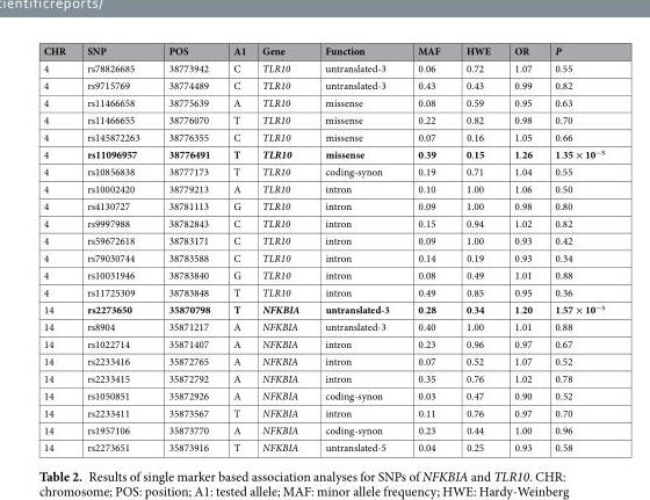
<table><thead><tr><td>CHR</td><td>SNP</td><td>POS</td><td>A1</td><td>Gene</td><td>Function</td><td>MAF</td><td>HWE</td><td>OR</td><td>P</td></tr></thead><tbody><tr><td>4</td><td>rs78826685</td><td>38773942</td><td>C</td><td>TLR10</td><td>untranslated-3</td><td>0.06</td><td>0.72</td><td>1.07</td><td>0.55</td></tr><tr><td>4</td><td>rs9715769</td><td>38774489</td><td>C</td><td>TLR10</td><td>untranslated-3</td><td>0.43</td><td>0.43</td><td>0.99</td><td>0.82</td></tr><tr><td>4</td><td>rs11466658</td><td>38775639</td><td>A</td><td>TLR10</td><td>missense</td><td>0.08</td><td>0.59</td><td>0.95</td><td>0.63</td></tr><tr><td>4</td><td>rs11466655</td><td>38776070</td><td>T</td><td>TLR10</td><td>missense</td><td>0.22</td><td>0.82</td><td>0.98</td><td>0.70</td></tr><tr><td>4</td><td>rs145872263</td><td>38776355</td><td>C</td><td>TLR10</td><td>missense</td><td>0.07</td><td>0.16</td><td>1.05</td><td>0.66</td></tr><tr><td>4</td><td>rs11096957</td><td>38776491</td><td>T</td><td>TLR10</td><td>missense</td><td>0.39</td><td>0.15</td><td>1.26</td><td>1.35 × 10<sup>−5</sup></td></tr><tr><td>4</td><td>rs10856838</td><td>38777173</td><td>T</td><td>TLR10</td><td>coding-synon</td><td>0.19</td><td>0.71</td><td>1.04</td><td>0.55</td></tr><tr><td>4</td><td>rs10002420</td><td>38779213</td><td>A</td><td>TLR10</td><td>intron</td><td>0.10</td><td>1.00</td><td>1.06</td><td>0.50</td></tr><tr><td>4</td><td>rs4130727</td><td>38781113</td><td>G</td><td>TLR10</td><td>intron</td><td>0.09</td><td>1.00</td><td>0.98</td><td>0.80</td></tr><tr><td>4</td><td>rs9997988</td><td>38782843</td><td>C</td><td>TLR10</td><td>intron</td><td>0.15</td><td>0.94</td><td>1.02</td><td>0.82</td></tr><tr><td>4</td><td>rs59672618</td><td>38783171</td><td>C</td><td>TLR10</td><td>intron</td><td>0.09</td><td>1.00</td><td>0.93</td><td>0.42</td></tr><tr><td>4</td><td>rs79030744</td><td>38783588</td><td>C</td><td>TLR10</td><td>intron</td><td>0.14</td><td>0.19</td><td>0.93</td><td>0.34</td></tr><tr><td>4</td><td>rs10031946</td><td>38783840</td><td>G</td><td>TLR10</td><td>intron</td><td>0.08</td><td>0.49</td><td>1.01</td><td>0.88</td></tr><tr><td>4</td><td>rs11725309</td><td>38783848</td><td>T</td><td>TLR10</td><td>intron</td><td>0.49</td><td>0.85</td><td>0.95</td><td>0.36</td></tr><tr><td>14</td><td>rs2273650</td><td>35870798</td><td>T</td><td>NFKBIA</td><td>untranslated-3</td><td>0.28</td><td>0.34</td><td>1.20</td><td>1.57 × 10<sup>−3</sup></td></tr><tr><td>14</td><td>rs8904</td><td>35871217</td><td>A</td><td>NFKBIA</td><td>untranslated-3</td><td>0.40</td><td>1.00</td><td>1.01</td><td>0.88</td></tr><tr><td>14</td><td>rs1022714</td><td>35871407</td><td>A</td><td>NFKBIA</td><td>intron</td><td>0.23</td><td>0.96</td><td>0.97</td><td>0.67</td></tr><tr><td>14</td><td>rs2233416</td><td>35872765</td><td>A</td><td>NFKBIA</td><td>intron</td><td>0.07</td><td>0.52</td><td>1.07</td><td>0.52</td></tr><tr><td>14</td><td>rs2233415</td><td>35872792</td><td>A</td><td>NFKBIA</td><td>intron</td><td>0.35</td><td>0.76</td><td>1.02</td><td>0.78</td></tr><tr><td>14</td><td>rs1050851</td><td>35872926</td><td>A</td><td>NFKBIA</td><td>coding-synon</td><td>0.03</td><td>0.47</td><td>0.90</td><td>0.52</td></tr><tr><td>14</td><td>rs2233411</td><td>35873567</td><td>T</td><td>NFKBIA</td><td>intron</td><td>0.11</td><td>0.76</td><td>0.97</td><td>0.70</td></tr><tr><td>14</td><td>rs1957106</td><td>35873770</td><td>A</td><td>NFKBIA</td><td>coding-synon</td><td>0.23</td><td>0.44</td><td>1.00</td><td>0.96</td></tr><tr><td>14</td><td>rs2273651</td><td>35873916</td><td>T</td><td>NFKBIA</td><td>untranslated-5</td><td>0.04</td><td>0.25</td><td>0.93</td><td>0.58</td></tr></tbody></table>